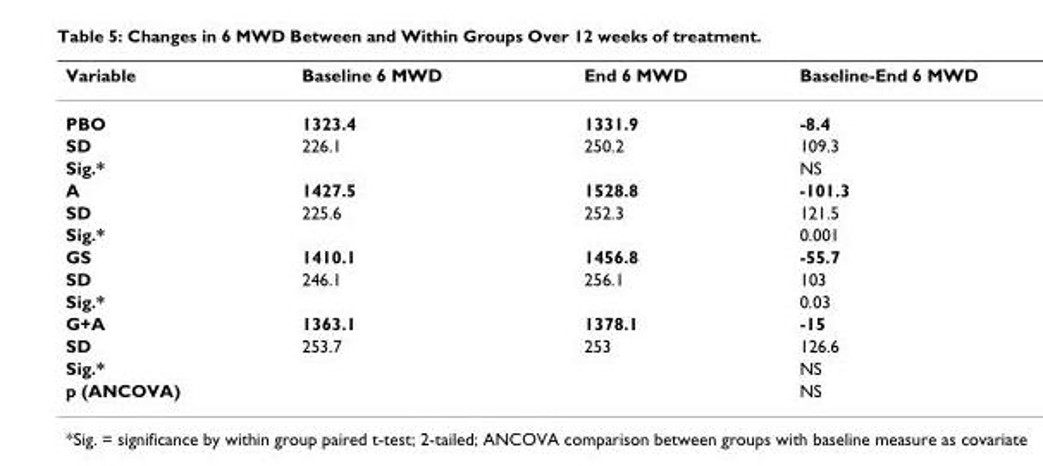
<table><thead><tr><td>Variable</td><td>Baseline 6 MWD</td><td>End 6 MWD</td><td>Baseline-End 6 MWD</td></tr></thead><tbody><tr><td>PBO</td><td>1323.4</td><td>1331.9</td><td>-8.4</td></tr><tr><td>SD</td><td>226.1</td><td>250.2</td><td>109.3</td></tr><tr><td>Sig.*</td><td></td><td></td><td>NS</td></tr><tr><td>A</td><td>1427.5</td><td>1528.8</td><td>-101.3</td></tr><tr><td>SD</td><td>225.6</td><td>252.3</td><td>121.5</td></tr><tr><td>Sig.*</td><td></td><td></td><td>0.001</td></tr><tr><td>GS</td><td>1410.1</td><td>1456.8</td><td>-55.7</td></tr><tr><td>SD</td><td>246.1</td><td>256.1</td><td>103</td></tr><tr><td>Sig.*</td><td></td><td></td><td>0.03</td></tr><tr><td>G+A</td><td>1363.1</td><td>1378.1</td><td>-15</td></tr><tr><td>SD</td><td>253.7</td><td>253</td><td>126.6</td></tr><tr><td>Sig.*</td><td></td><td></td><td>NS</td></tr><tr><td>p (ANCOVA)</td><td></td><td></td><td>NS</td></tr></tbody></table>